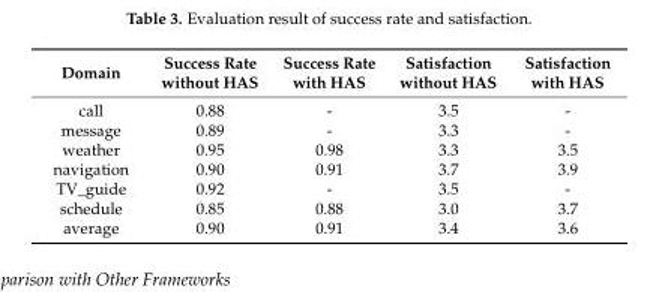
<table><thead><tr><td>Domain</td><td>Success Rate without HAS</td><td>Success Rate with HAS</td><td>Satisfaction without HAS</td><td>Satisfaction with HAS</td></tr></thead><tbody><tr><td>call</td><td>0.88</td><td>-</td><td>3.5</td><td>-</td></tr><tr><td>message</td><td>0.89</td><td>-</td><td>3.3</td><td>-</td></tr><tr><td>weather</td><td>0.95</td><td>0.98</td><td>3.3</td><td>3.5</td></tr><tr><td>navigation</td><td>0.90</td><td>0.91</td><td>3.7</td><td>3.9</td></tr><tr><td>TV_guide</td><td>0.92</td><td>-</td><td>3.5</td><td>-</td></tr><tr><td>schedule</td><td>0.85</td><td>0.88</td><td>3.0</td><td>3.7</td></tr><tr><td>average</td><td>0.90</td><td>0.91</td><td>3.4</td><td>3.6</td></tr></tbody></table>